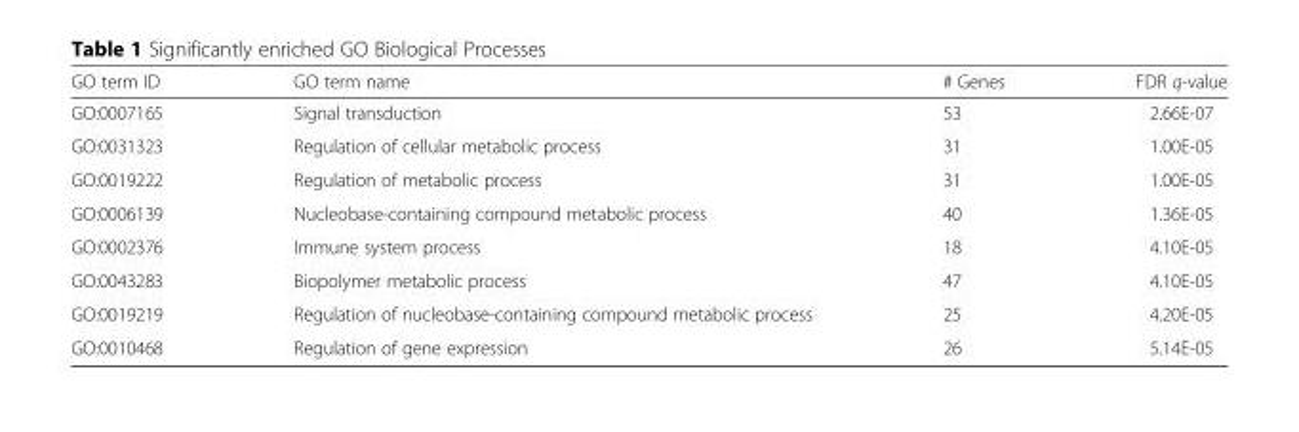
<table><thead><tr><td>GO term ID</td><td>GO term name</td><td># Genes</td><td>FDR q-value</td></tr></thead><tbody><tr><td>GO:0007165</td><td>Signal transduction</td><td>53</td><td>2.66E-07</td></tr><tr><td>GO:0031323</td><td>Regulation of cellular metabolic process</td><td>31</td><td>1.00E-05</td></tr><tr><td>GO:0019222</td><td>Regulation of metabolic process</td><td>31</td><td>1.00E-05</td></tr><tr><td>GO:0006139</td><td>Nucleobase-containing compound metabolic process</td><td>40</td><td>1.36E-05</td></tr><tr><td>GO:0002376</td><td>Immune system process</td><td>18</td><td>4.10E-05</td></tr><tr><td>GO:0043283</td><td>Biopolymer metabolic process</td><td>47</td><td>4.10E-05</td></tr><tr><td>GO:0019219</td><td>Regulation of nucleobase-containing compound metabolic process</td><td>25</td><td>4.20E-05</td></tr><tr><td>GO:0010468</td><td>Regulation of gene expression</td><td>26</td><td>5.14E-05</td></tr></tbody></table>